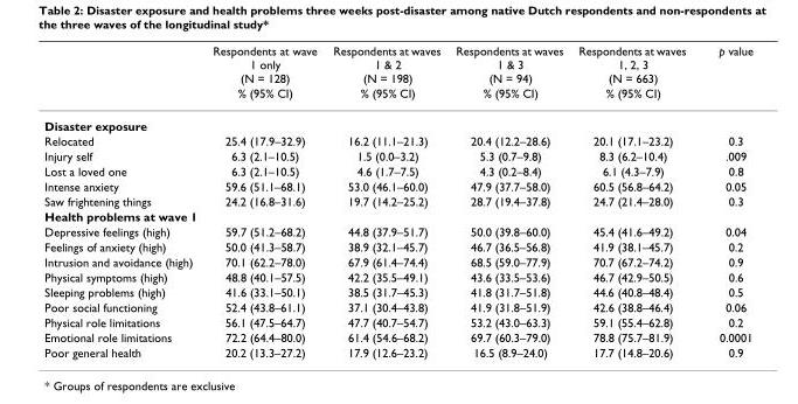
<table><thead><tr><td rowspan="2"></td><td rowspan="2">Respondents at wave 1 only (N = 128) % (95% CI)</td><td rowspan="2">Respondents at waves 1 &amp; 2 (N = 198) % (95% CI)</td><td rowspan="2">Respondents at waves 1 &amp; 3 (N = 94) % (95% CI)</td><td rowspan="2">Respondents at waves 1, 2, 3 (N = 663) % (95% CI)</td><td rowspan="2">p value</td></tr><tr></tr></thead><tbody><tr><td colspan="6">Disaster exposure</td></tr><tr><td>Relocated</td><td>25.4 (17.9–32.9)</td><td>16.2 (11.1–21.3)</td><td>20.4 (12.2–28.6)</td><td>20.1 (17.1–23.2)</td><td>0.3</td></tr><tr><td>Injury self</td><td>6.3 (2.1–10.5)</td><td>1.5 (0.0–3.2)</td><td>5.3 (0.7–9.8)</td><td>8.3 (6.2–10.4)</td><td>.009</td></tr><tr><td>Lost a loved one</td><td>6.3 (2.1–10.5)</td><td>4.6 (1.7–7.5)</td><td>4.3 (0.2–8.4)</td><td>6.1 (4.3–7.9)</td><td>0.8</td></tr><tr><td>Intense anxiety</td><td>59.6 (51.1–68.1)</td><td>53.0 (46.1–60.0)</td><td>47.9 (37.7–58.0)</td><td>60.5 (56.8–64.2)</td><td>0.05</td></tr><tr><td>Saw frightening things</td><td>24.2 (16.8–31.6)</td><td>19.7 (14.2–25.2)</td><td>28.7 (19.4–37.8)</td><td>24.7 (21.4–28.0)</td><td>0.3</td></tr><tr><td colspan="6">Health problems at wave 1</td></tr><tr><td>Depressive feelings (high)</td><td>59.7 (51.2–68.2)</td><td>44.8 (37.9–51.7)</td><td>50.0 (39.8–60.0)</td><td>45.4 (41.6–49.2)</td><td>0.04</td></tr><tr><td>Feelings of anxiety (high)</td><td>50.0 (41.3–58.7)</td><td>38.9 (32.1–45.7)</td><td>46.7 (36.5–56.8)</td><td>41.9 (38.1–45.7)</td><td>0.2</td></tr><tr><td>Intrusion and avoidance (high)</td><td>70.1 (62.2–78.0)</td><td>67.9 (61.4–74.4)</td><td>68.5 (59.0–77.9)</td><td>70.7 (67.2–74.2)</td><td>0.9</td></tr><tr><td>Physical symptoms (high)</td><td>48.8 (40.1–57.5)</td><td>42.2 (35.5–49.1)</td><td>43.6 (33.5–53.6)</td><td>46.7 (42.9–50.5)</td><td>0.6</td></tr><tr><td>Sleeping problems (high)</td><td>41.6 (33.1–50.1)</td><td>38.5 (31.7–45.3)</td><td>41.8 (31.7–51.8)</td><td>44.6 (40.8–48.4)</td><td>0.5</td></tr><tr><td>Poor social functioning</td><td>52.4 (43.8–61.1)</td><td>37.1 (30.4–43.8)</td><td>41.9 (31.8–51.9)</td><td>42.6 (38.8–46.4)</td><td>0.06</td></tr><tr><td>Physical role limitations</td><td>56.1 (47.5–64.7)</td><td>47.7 (40.7–54.7)</td><td>53.2 (43.0–63.3)</td><td>59.1 (55.4–62.8)</td><td>0.2</td></tr><tr><td>Emotional role limitations</td><td>72.2 (64.4–80.0)</td><td>61.4 (54.6–68.2)</td><td>69.7 (60.3–79.0)</td><td>78.8 (75.7–81.9)</td><td>0.0001</td></tr><tr><td>Poor general health</td><td>20.2 (13.3–27.2)</td><td>17.9 (12.6–23.2)</td><td>16.5 (8.9–24.0)</td><td>17.7 (14.8–20.6)</td><td>0.9</td></tr></tbody></table>